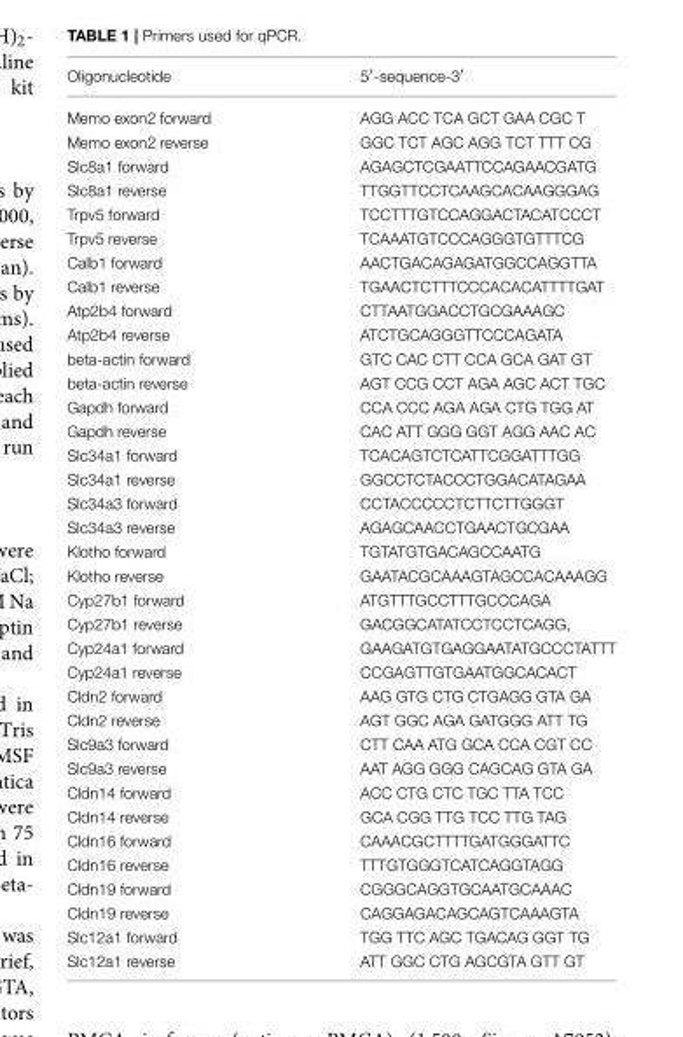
<table><thead><tr><td>Oligonucleotide</td><td>5<sup>′</sup>-sequence-3<sup>′</sup></td></tr></thead><tbody><tr><td>Memo exon2 forward</td><td>AGG ACC TCA GCT GAA CGC T</td></tr><tr><td>Memo exon2 reverse</td><td>GGC TCT AGC AGG TCT TTT CG</td></tr><tr><td>Slc8a1 forward</td><td>AGAGCTCGAATTCCAGAACGATG</td></tr><tr><td>Slc8a1 reverse</td><td>TTGGTTCCTCAAGCACAAGGGAG</td></tr><tr><td>Trpv5 forward</td><td>TCCTTTGTCCAGGACTACATCCCT</td></tr><tr><td>Trpv5 reverse</td><td>TCAAATGTCCCAGGGTGTTTCG</td></tr><tr><td>Calb1 forward</td><td>AACTGACAGAGATGGCCAGGTTA</td></tr><tr><td>Calb1 reverse</td><td>TGAACTCTTTCCCACACATTTTGAT</td></tr><tr><td>Atp2b4 forward</td><td>CTTAATGGACCTGCGAAAGC</td></tr><tr><td>Atp2b4 reverse</td><td>ATCTGCAGGGTTCCCAGATA</td></tr><tr><td>beta-actin forward</td><td>GTC CAC CTT CCA GCA GAT GT</td></tr><tr><td>beta-actin reverse</td><td>AGT CCG CCT AGA AGC ACT TGC</td></tr><tr><td>Gapdh forward</td><td>CCA CCC AGA AGA CTG TGG AT</td></tr><tr><td>Gapdh reverse</td><td>CAC ATT GGG GGT AGG AAC AC</td></tr><tr><td>Slc34a1 forward</td><td>TCACAGTCTCATTCGGATTTGG</td></tr><tr><td>Slc34a1 reverse</td><td>GGCCTCTACCCTGGACATAGAA</td></tr><tr><td>Slc34a3 forward</td><td>CCTACCCCCTCTTCTTGGGT</td></tr><tr><td>Slc34a3 reverse</td><td>AGAGCAACCTGAACTGCGAA</td></tr><tr><td>Klotho forward</td><td>TGTATGTGACAGCCAATG</td></tr><tr><td>Klotho reverse</td><td>GAATACGCAAAGTAGCCACAAAGG</td></tr><tr><td>Cyp27b1 forward</td><td>ATGTTTGCCTTTGCCCAGA</td></tr><tr><td>Cyp27b1 reverse</td><td>GACGGCATATCCTCCTCAGG,</td></tr><tr><td>Cyp24a1 forward</td><td>GAAGATGTGAGGAATATGCCCTATTT</td></tr><tr><td>Cyp24a1 reverse</td><td>CCGAGTTGTGAATGGCACACT</td></tr><tr><td>Cldn2 forward</td><td>AAG GTG CTG CTGAGG GTA GA</td></tr><tr><td>Cldn2 reverse</td><td>AGT GGC AGA GATGGG ATT TG</td></tr><tr><td>Slc9a3 forward</td><td>CTT CAA ATG GCA CCA CGT CC</td></tr><tr><td>Slc9a3 reverse</td><td>AAT AGG GGG CAGCAG GTA GA</td></tr><tr><td>Cldn14 forward</td><td>ACC CTG CTC TGC TTA TCC</td></tr><tr><td>Cldn14 reverse</td><td>GCA CGG TTG TCC TTG TAG</td></tr><tr><td>Cldn16 forward</td><td>CAAACGCTTTTGATGGGATTC</td></tr><tr><td>Cldn16 reverse</td><td>TTTGTGGGTCATCAGGTAGG</td></tr><tr><td>Cldn19 forward</td><td>CGGGCAGGTGCAATGCAAAC</td></tr><tr><td>Cldn19 reverse</td><td>CAGGAGACAGCAGTCAAAGTA</td></tr><tr><td>Slc12a1 forward</td><td>TGG TTC AGC TGACAG GGT TG</td></tr><tr><td>Slc12a1 reverse</td><td>ATT GGC CTG AGCGTA GTT GT</td></tr></tbody></table>